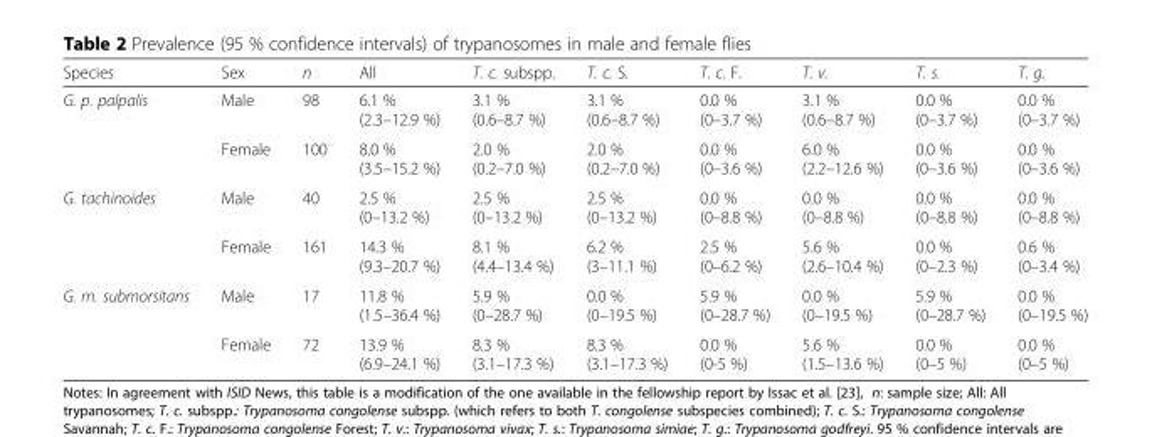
<table><thead><tr><td>Species</td><td>Sex</td><td>n</td><td>All</td><td>T. c. subspp.</td><td>T. c. S.</td><td>T. c. F.</td><td>T. v.</td><td>T. s.</td><td>T. g.</td></tr></thead><tbody><tr><td rowspan="2">G. p. palpalis</td><td>Male</td><td>98</td><td>6.1 % (2.3–12.9 %)</td><td>3.1 % (0.6–8.7 %)</td><td>3.1 % (0.6–8.7 %)</td><td>0.0 % (0–3.7 %)</td><td>3.1 % (0.6–8.7 %)</td><td>0.0 % (0–3.7 %)</td><td>0.0 % (0–3.7 %)</td></tr><tr><td>Female</td><td>100</td><td>8.0 % (3.5–15.2 %)</td><td>2.0 % (0.2–7.0 %)</td><td>2.0 % (0.2–7.0 %)</td><td>0.0 % (0–3.6 %)</td><td>6.0 % (2.2–12.6 %)</td><td>0.0 % (0–3.6 %)</td><td>0.0 % (0–3.6 %)</td></tr><tr><td rowspan="2">G. tachinoides</td><td>Male</td><td>40</td><td>2.5 % (0–13.2 %)</td><td>2.5 % (0–13.2 %)</td><td>2.5 % (0–13.2 %)</td><td>0.0 % (0–8.8 %)</td><td>0.0 % (0–8.8 %)</td><td>0.0 % (0–8.8 %)</td><td>0.0 % (0–8.8 %)</td></tr><tr><td>Female</td><td>161</td><td>14.3 % (9.3–20.7 %)</td><td>8.1 % (4.4–13.4 %)</td><td>6.2 % (3–11.1 %)</td><td>2.5 % (0–6.2 %)</td><td>5.6 % (2.6–10.4 %)</td><td>0.0 % (0–2.3 %)</td><td>0.6 % (0–3.4 %)</td></tr><tr><td rowspan="2">G. m. submorsitans</td><td>Male</td><td>17</td><td>11.8 % (1.5–36.4 %)</td><td>5.9 % (0–28.7 %)</td><td>0.0 % (0–19.5 %)</td><td>5.9 % (0–28.7 %)</td><td>0.0 % (0–19.5 %)</td><td>5.9 % (0–28.7 %)</td><td>0.0 % (0–19.5 %)</td></tr><tr><td>Female</td><td>72</td><td>13.9 % (6.9–24.1 %)</td><td>8.3 % (3.1–17.3 %)</td><td>8.3 % (3.1–17.3 %)</td><td>0.0 % (0-5 %)</td><td>5.6 % (1.5–13.6 %)</td><td>0.0 % (0–5 %)</td><td>0.0 % (0–5 %)</td></tr></tbody></table>